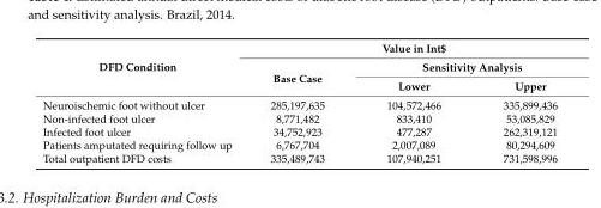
<table><thead><tr><td rowspan="3">DFD Condition</td><td colspan="3">Value in Int$</td></tr><tr><td rowspan="2">Base Case</td><td colspan="2">Sensitivity Analysis</td></tr><tr><td>Lower</td><td>Upper</td></tr></thead><tbody><tr><td>Neuroischemic foot without ulcer</td><td>285,197,635</td><td>104,572,466</td><td>335,899,436</td></tr><tr><td>Non-infected foot ulcer</td><td>8,771,482</td><td>833,410</td><td>53,085,829</td></tr><tr><td>Infected foot ulcer</td><td>34,752,923</td><td>477,287</td><td>262,319,121</td></tr><tr><td>Patients amputated requiring follow up</td><td>6,767,704</td><td>2,007,089</td><td>80,294,609</td></tr><tr><td>Total outpatient DFD costs</td><td>335,489,743</td><td>107,940,251</td><td>731,598,996</td></tr></tbody></table>